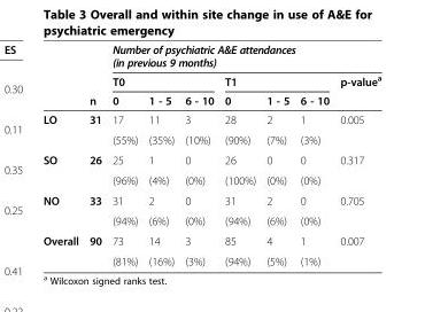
<table><thead><tr><td rowspan="3"></td><td rowspan="3">n</td><td colspan="7">Number of psychiatric A&amp;E attendances (in previous 9 months)</td></tr><tr><td colspan="3">T0</td><td colspan="3">T1</td><td rowspan="2">p-value<sup>a</sup></td></tr><tr><td>0</td><td>1 - 5</td><td>6 - 10</td><td>0</td><td>1 - 5</td><td>6 - 10</td></tr></thead><tbody><tr><td rowspan="2">LO</td><td>31</td><td>17</td><td>11</td><td>3</td><td>28</td><td>2</td><td>1</td><td>0.005</td></tr><tr><td></td><td>(55%)</td><td>(35%)</td><td>(10%)</td><td>(90%)</td><td>(7%)</td><td>(3%)</td><td></td></tr><tr><td rowspan="2">SO</td><td>26</td><td>25</td><td>1</td><td>0</td><td>26</td><td>0</td><td>0</td><td>0.317</td></tr><tr><td></td><td>(96%)</td><td>(4%)</td><td>(0%)</td><td>(100%)</td><td>(0%)</td><td>(0%)</td><td></td></tr><tr><td rowspan="2">NO</td><td>33</td><td>31</td><td>2</td><td>0</td><td>31</td><td>2</td><td>0</td><td>0.705</td></tr><tr><td></td><td>(94%)</td><td>(6%)</td><td>(0%)</td><td>(94%)</td><td>(6%)</td><td>(0%)</td><td></td></tr><tr><td rowspan="2">Overall</td><td>90</td><td>73</td><td>14</td><td>3</td><td>85</td><td>4</td><td>1</td><td>0.007</td></tr><tr><td></td><td>(81%)</td><td>(16%)</td><td>(3%)</td><td>(94%)</td><td>(5%)</td><td>(1%)</td><td></td></tr></tbody></table>